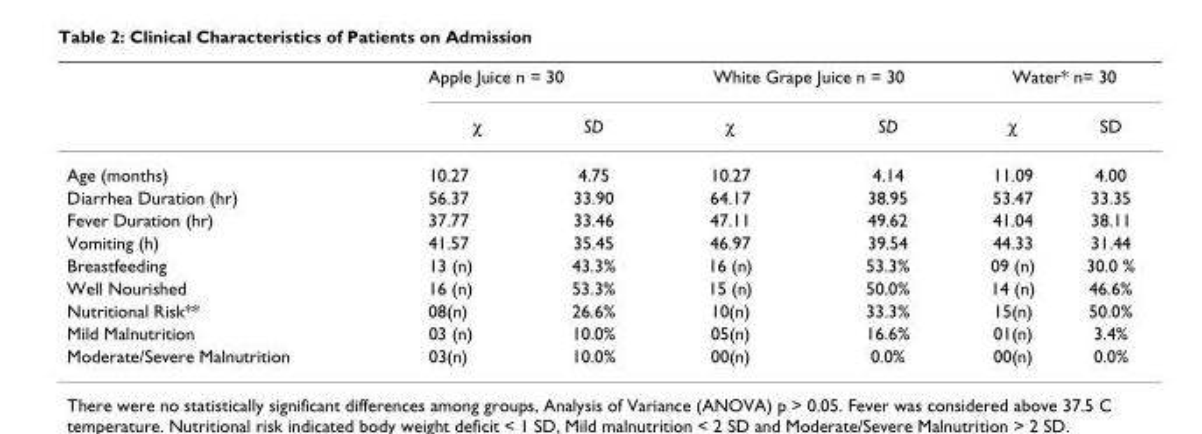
<table><thead><tr><td rowspan="2"></td><td colspan="2">Apple Juice n = 30</td><td colspan="2">White Grape Juice n = 30</td><td colspan="2">Water* n= 30</td></tr><tr><td>χ</td><td>SD</td><td>χ</td><td>SD</td><td>χ</td><td>SD</td></tr></thead><tbody><tr><td>Age (months)</td><td>10.27</td><td>4.75</td><td>10.27</td><td>4.14</td><td>11.09</td><td>4.00</td></tr><tr><td>Diarrhea Duration (hr)</td><td>56.37</td><td>33.90</td><td>64.17</td><td>38.95</td><td>53.47</td><td>33.35</td></tr><tr><td>Fever Duration (hr)</td><td>37.77</td><td>33.46</td><td>47.11</td><td>49.62</td><td>41.04</td><td>38.11</td></tr><tr><td>Vomiting (h)</td><td>41.57</td><td>35.45</td><td>46.97</td><td>39.54</td><td>44.33</td><td>31.44</td></tr><tr><td>Breastfeeding</td><td>13 (n)</td><td>43.3%</td><td>16 (n)</td><td>53.3%</td><td>09 (n)</td><td>30.0 %</td></tr><tr><td>Well Nourished</td><td>16 (n)</td><td>53.3%</td><td>15 (n)</td><td>50.0%</td><td>14 (n)</td><td>46.6%</td></tr><tr><td>Nutritional Risk**</td><td>08(n)</td><td>26.6%</td><td>10(n)</td><td>33.3%</td><td>15(n)</td><td>50.0%</td></tr><tr><td>Mild Malnutrition</td><td>03 (n)</td><td>10.0%</td><td>05(n)</td><td>16.6%</td><td>01(n)</td><td>3.4%</td></tr><tr><td>Moderate/Severe Malnutrition</td><td>03(n)</td><td>10.0%</td><td>00(n)</td><td>0.0%</td><td>00(n)</td><td>0.0%</td></tr></tbody></table>